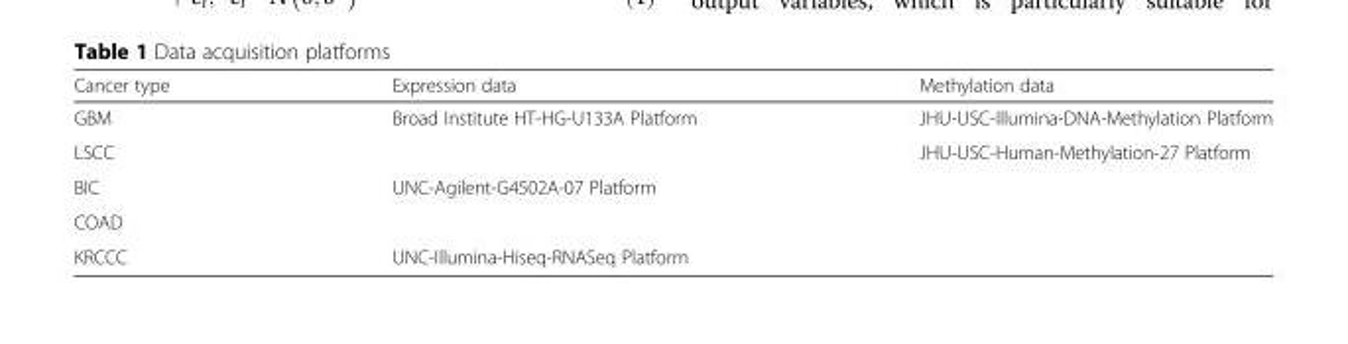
<table><thead><tr><td>Cancer type</td><td>Expression data</td><td>Methylation data</td></tr></thead><tbody><tr><td>GBM</td><td rowspan="2">Broad Institute HT-HG-U133A Platform</td><td>JHU-USC-Illumina-DNA-Methylation Platform</td></tr><tr><td>LSCC</td><td rowspan="4">JHU-USC-Human-Methylation-27 Platform</td></tr><tr><td>BIC</td><td rowspan="2">UNC-Agilent-G4502A-07 Platform</td></tr><tr><td>COAD</td></tr><tr><td>KRCCC</td><td>UNC-Illumina-Hiseq-RNASeq Platform</td></tr></tbody></table>